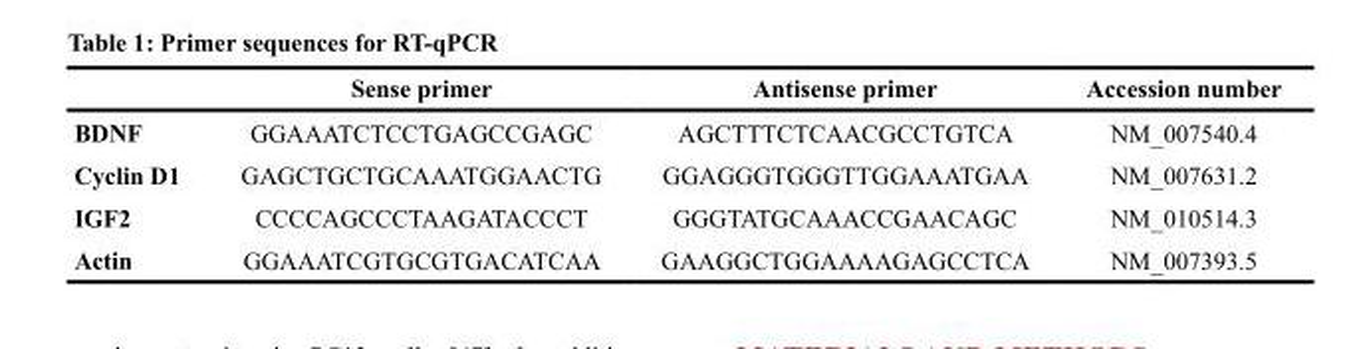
<table><thead><tr><td></td><td>Sense primer</td><td>Antisense primer</td><td>Accession number</td></tr></thead><tbody><tr><td>BDNF</td><td>GGAAATCTCCTGAGCCGAGC</td><td>AGCTTTCTCAACGCCTGTCA</td><td>NM_007540.4</td></tr><tr><td>Cyclin D1</td><td>GAGCTGCTGCAAATGGAACTG</td><td>GGAGGGTGGGTTGGAAATGAA</td><td>NM_007631.2</td></tr><tr><td>IGF2</td><td>CCCCAGCCCTAAGATACCCT</td><td>GGGTATGCAAACCGAACAGC</td><td>NM_010514.3</td></tr><tr><td>Actin</td><td>GGAAATCGTGCGTGACATCAA</td><td>GAAGGCTGGAAAAGAGCCTCA</td><td>NM_007393.5</td></tr></tbody></table>